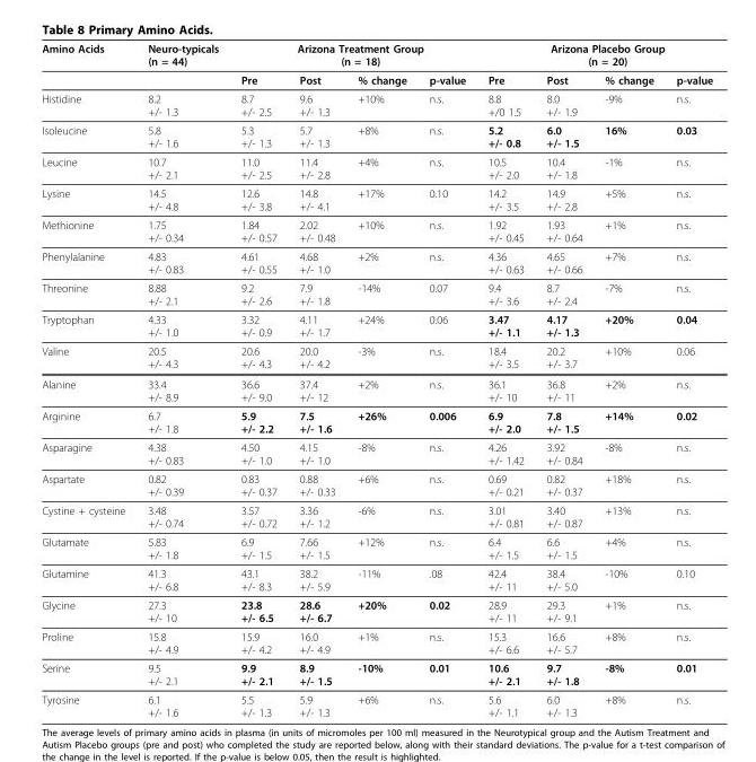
<table><thead><tr><td rowspan="2">Amino Acids</td><td rowspan="2">Neuro-typicals (n = 44)</td><td colspan="4">Arizona Treatment Group (n = 18)</td><td colspan="4">Arizona Placebo Group (n = 20)</td></tr><tr><td>Pre</td><td>Post</td><td>% change</td><td>p-value</td><td>Pre</td><td>Post</td><td>% change</td><td>p-value</td></tr></thead><tbody><tr><td>Histidine</td><td>8.2 +/- 1.3</td><td>8.7 +/- 2.5</td><td>9.6 +/- 1.3</td><td>+10%</td><td>n.s.</td><td>8.8 +/0 1.5</td><td>8.0 +/- 1.9</td><td>-9%</td><td>n.s.</td></tr><tr><td>Isoleucine</td><td>5.8 +/- 1.6</td><td>5.3 +/- 1.3</td><td>5.7 +/- 1.3</td><td>+8%</td><td>n.s.</td><td>5.2 +/- 0.8</td><td>6.0 +/- 1.5</td><td>16%</td><td>0.03</td></tr><tr><td>Leucine</td><td>10.7 +/- 2.1</td><td>11.0 +/- 2.5</td><td>11.4 +/- 2.8</td><td>+4%</td><td>n.s.</td><td>10.5 +/- 2.0</td><td>10.4 +/- 1.8</td><td>-1%</td><td>n.s.</td></tr><tr><td>Lysine</td><td>14.5 +/- 4.8</td><td>12.6 +/- 3.8</td><td>14.8 +/- 4.1</td><td>+17%</td><td>0.10</td><td>14.2 +/- 3.5</td><td>14.9 +/- 2.8</td><td>+5%</td><td>n.s.</td></tr><tr><td>Methionine</td><td>1.75 +/- 0.34</td><td>1.84 +/- 0.57</td><td>2.02 +/- 0.48</td><td>+10%</td><td>n.s.</td><td>1.92 +/- 0.45</td><td>1.93 +/- 0.64</td><td>+1%</td><td>n.s.</td></tr><tr><td>Phenylalanine</td><td>4.83 +/- 0.83</td><td>4.61 +/- 0.55</td><td>4.68 +/- 1.0</td><td>+2%</td><td>n.s.</td><td>4.36 +/- 0.63</td><td>4.65 +/- 0.66</td><td>+7%</td><td>n.s.</td></tr><tr><td>Threonine</td><td>8.88 +/- 2.1</td><td>9.2 +/- 2.6</td><td>7.9 +/- 1.8</td><td>-14%</td><td>0.07</td><td>9.4 +/- 3.6</td><td>8.7 +/- 2.4</td><td>-7%</td><td>n.s.</td></tr><tr><td>Tryptophan</td><td>4.33 +/- 1.0</td><td>3.32 +/- 0.9</td><td>4.11 +/- 1.7</td><td>+24%</td><td>0.06</td><td>3.47 +/- 1.1</td><td>4.17 +/- 1.3</td><td>+20%</td><td>0.04</td></tr><tr><td>Valine</td><td>20.5 +/- 4.3</td><td>20.6 +/- 4.3</td><td>20.0 +/- 4.2</td><td>-3%</td><td>n.s.</td><td>18.4 +/- 3.5</td><td>20.2 +/- 3.7</td><td>+10%</td><td>0.06</td></tr><tr><td>Alanine</td><td>33.4 +/- 8.9</td><td>36.6 +/- 9.0</td><td>37.4 +/- 12</td><td>+2%</td><td>n.s.</td><td>36.1 +/- 10</td><td>36.8 +/- 11</td><td>+2%</td><td>n.s.</td></tr><tr><td>Arginine</td><td>6.7 +/- 1.8</td><td>5.9 +/- 2.2</td><td>7.5 +/- 1.6</td><td>+26%</td><td>0.006</td><td>6.9 +/- 2.0</td><td>7.8 +/- 1.5</td><td>+14%</td><td>0.02</td></tr><tr><td>Asparagine</td><td>4.38 +/- 0.83</td><td>4.50 +/- 1.0</td><td>4.15 +/- 1.0</td><td>-8%</td><td>n.s.</td><td>4.26 +/- 1.42</td><td>3.92 +/- 0.84</td><td>-8%</td><td>n.s.</td></tr><tr><td>Aspartate</td><td>0.82 +/- 0.39</td><td>0.83 +/- 0.37</td><td>0.88 +/- 0.33</td><td>+6%</td><td>n.s.</td><td>0.69 +/- 0.21</td><td>0.82 +/- 0.37</td><td>+18%</td><td>n.s.</td></tr><tr><td>Cystine + cysteine</td><td>3.48 +/- 0.74</td><td>3.57 +/- 0.72</td><td>3.36 +/- 1.2</td><td>-6%</td><td>n.s.</td><td>3.01 +/- 0.81</td><td>3.40 +/- 0.87</td><td>+13%</td><td>n.s.</td></tr><tr><td>Glutamate</td><td>5.83 +/- 1.8</td><td>6.9 +/- 1.5</td><td>7.66 +/- 1.5</td><td>+12%</td><td>n.s.</td><td>6.4 +/- 1.5</td><td>6.6 +/- 1.5</td><td>+4%</td><td>n.s.</td></tr><tr><td>Glutamine</td><td>41.3 +/- 6.8</td><td>43.1 +/- 8.3</td><td>38.2 +/- 5.9</td><td>-11%</td><td>.08</td><td>42.4 +/- 11</td><td>38.4 +/- 5.0</td><td>-10%</td><td>0.10</td></tr><tr><td>Glycine</td><td>27.3 +/- 10</td><td>23.8 +/- 6.5</td><td>28.6 +/- 6.7</td><td>+20%</td><td>0.02</td><td>28.9 +/- 11</td><td>29.3 +/- 9.1</td><td>+1%</td><td>n.s.</td></tr><tr><td>Proline</td><td>15.8 +/- 4.9</td><td>15.9 +/- 4.2</td><td>16.0 +/- 4.9</td><td>+1%</td><td>n.s.</td><td>15.3 +/- 6.6</td><td>16.6 +/- 5.7</td><td>+8%</td><td>n.s.</td></tr><tr><td>Serine</td><td>9.5 +/- 2.1</td><td>9.9 +/- 2.1</td><td>8.9 +/- 1.5</td><td>-10%</td><td>0.01</td><td>10.6 +/- 2.1</td><td>9.7 +/- 1.8</td><td>-8%</td><td>0.01</td></tr><tr><td>Tyrosine</td><td>6.1 +/- 1.6</td><td>5.5 +/- 1.3</td><td>5.9 +/- 1.3</td><td>+6%</td><td>n.s.</td><td>5.6 +/- 1.1</td><td>6.0 +/- 1.3</td><td>+8%</td><td>n.s.</td></tr></tbody></table>